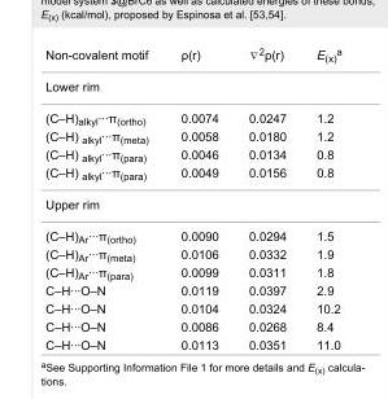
<table><tbody><tr><td>Non-covalent motif</td><td>ρ(r)</td><td><sup>2</sup>ρ(r)</td><td>E<sub>(x)</sub><sup>a</sup></td></tr><tr><td colspan="4">Lower rim</td></tr><tr><td>(C–H)<sub>alkyl</sub>···π<sub>(ortho)</sub></td><td>0.0074</td><td>0.0247</td><td>1.2</td></tr><tr><td>(C–H) <sub>alkyl</sub>···π<sub>(meta)</sub></td><td>0.0058</td><td>0.0180</td><td>1.2</td></tr><tr><td>(C–H) <sub>alkyl</sub>···π<sub>(para)</sub></td><td>0.0046</td><td>0.0134</td><td>0.8</td></tr><tr><td>(C–H) <sub>alkyl</sub>···π<sub>(para)</sub></td><td>0.0049</td><td>0.0156</td><td>0.8</td></tr><tr><td colspan="4">Upper rim</td></tr><tr><td>(C–H)<sub>Ar</sub>···π<sub>(ortho)</sub></td><td>0.0090</td><td>0.0294</td><td>1.5</td></tr><tr><td>(C–H)<sub>Ar</sub>···π<sub>(meta)</sub></td><td>0.0106</td><td>0.0332</td><td>1.9</td></tr><tr><td>(C–H)<sub>Ar</sub>···π<sub>(para)</sub></td><td>0.0099</td><td>0.0311</td><td>1.8</td></tr><tr><td>C–H···O–N</td><td>0.0119</td><td>0.0397</td><td>2.9</td></tr><tr><td>C–H···O–N</td><td>0.0104</td><td>0.0324</td><td>10.2</td></tr><tr><td>C–H···O–N</td><td>0.0086</td><td>0.0268</td><td>8.4</td></tr><tr><td>C–H···O–N</td><td>0.0113</td><td>0.0351</td><td>11.0</td></tr></tbody></table>